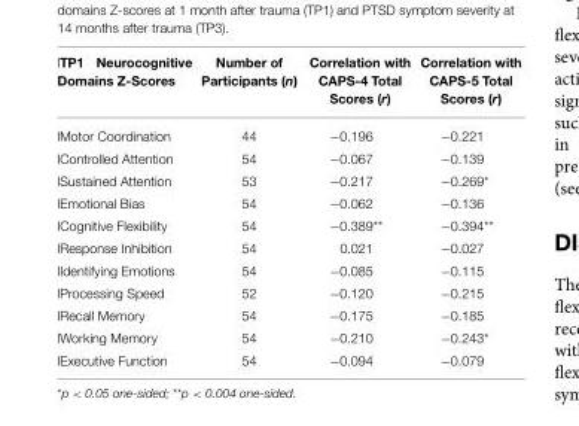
<table><thead><tr><td>lTP1 Neurocognitive Domains Z-Scores</td><td>Number of Participants (n)</td><td>Correlation with CAPS-4 Total Scores (r)</td><td>Correlation with CAPS-5 Total Scores (r)</td></tr></thead><tbody><tr><td>lMotor Coordination</td><td>44</td><td>−0.196</td><td>−0.221</td></tr><tr><td>lControlled Attention</td><td>54</td><td>−0.067</td><td>−0.139</td></tr><tr><td>lSustained Attention</td><td>53</td><td>−0.217</td><td>−0.269*</td></tr><tr><td>lEmotional Bias</td><td>54</td><td>−0.062</td><td>−0.136</td></tr><tr><td>lCognitive Flexibility</td><td>54</td><td>−0.389**</td><td>−0.394**</td></tr><tr><td>lResponse Inhibition</td><td>54</td><td>0.021</td><td>−0.027</td></tr><tr><td>lIdentifying Emotions</td><td>54</td><td>−0.085</td><td>−0.115</td></tr><tr><td>lProcessing Speed</td><td>52</td><td>−0.120</td><td>−0.215</td></tr><tr><td>lRecall Memory</td><td>54</td><td>−0.175</td><td>−0.185</td></tr><tr><td>lWorking Memory</td><td>54</td><td>−0.210</td><td>−0.243*</td></tr><tr><td>lExecutive Function</td><td>54</td><td>−0.094</td><td>−0.079</td></tr></tbody></table>